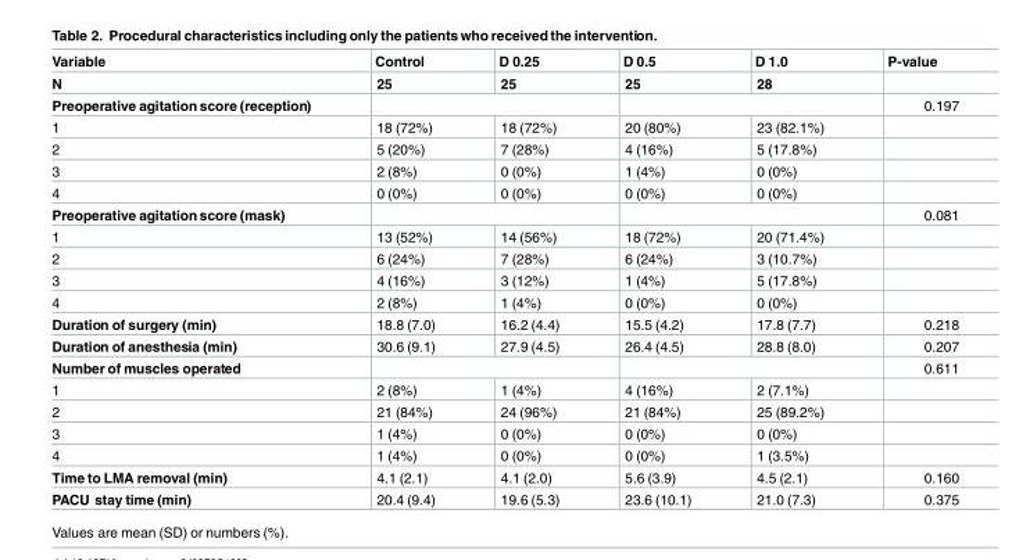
<table><thead><tr><td>Variable</td><td>Control</td><td>D 0.25</td><td>D 0.5</td><td>D 1.0</td><td>P-value</td></tr></thead><tbody><tr><td>N</td><td>25</td><td>25</td><td>25</td><td>28</td><td></td></tr><tr><td>Preoperative agitation score (reception)</td><td colspan="2"></td><td colspan="2"></td><td>0.197</td></tr><tr><td>1</td><td>18 (72%)</td><td>18 (72%)</td><td>20 (80%)</td><td>23 (82.1%)</td><td></td></tr><tr><td>2</td><td>5 (20%)</td><td>7 (28%)</td><td>4 (16%)</td><td>5 (17.8%)</td><td></td></tr><tr><td>3</td><td>2 (8%)</td><td>0 (0%)</td><td>1 (4%)</td><td>0 (0%)</td><td></td></tr><tr><td>4</td><td>0 (0%)</td><td>0 (0%)</td><td>0 (0%)</td><td>0 (0%)</td><td></td></tr><tr><td>Preoperative agitation score (mask)</td><td colspan="2"></td><td colspan="2"></td><td>0.081</td></tr><tr><td>1</td><td>13 (52%)</td><td>14 (56%)</td><td>18 (72%)</td><td>20 (71.4%)</td><td></td></tr><tr><td>2</td><td>6 (24%)</td><td>7 (28%)</td><td>6 (24%)</td><td>3 (10.7%)</td><td></td></tr><tr><td>3</td><td>4 (16%)</td><td>3 (12%)</td><td>1 (4%)</td><td>5 (17.8%)</td><td></td></tr><tr><td>4</td><td>2 (8%)</td><td>1 (4%)</td><td>0 (0%)</td><td>0 (0%)</td><td></td></tr><tr><td>Duration of surgery (min)</td><td>18.8 (7.0)</td><td>16.2 (4.4)</td><td>15.5 (4.2)</td><td>17.8 (7.7)</td><td>0.218</td></tr><tr><td>Duration of anesthesia (min)</td><td>30.6 (9.1)</td><td>27.9 (4.5)</td><td>26.4 (4.5)</td><td>28.8 (8.0)</td><td>0.207</td></tr><tr><td>Number of muscles operated</td><td colspan="2"></td><td colspan="2"></td><td>0.611</td></tr><tr><td>1</td><td>2 (8%)</td><td>1 (4%)</td><td>4 (16%)</td><td>2 (7.1%)</td><td></td></tr><tr><td>2</td><td>21 (84%)</td><td>24 (96%)</td><td>21 (84%)</td><td>25 (89.2%)</td><td></td></tr><tr><td>3</td><td>1 (4%)</td><td>0 (0%)</td><td>0 (0%)</td><td>0 (0%)</td><td></td></tr><tr><td>4</td><td>1 (4%)</td><td>0 (0%)</td><td>0 (0%)</td><td>1 (3.5%)</td><td></td></tr><tr><td>Time to LMA removal (min)</td><td>4.1 (2.1)</td><td>4.1 (2.0)</td><td>5.6 (3.9)</td><td>4.5 (2.1)</td><td>0.160</td></tr><tr><td>PACU stay time (min)</td><td>20.4 (9.4)</td><td>19.6 (5.3)</td><td>23.6 (10.1)</td><td>21.0 (7.3)</td><td>0.375</td></tr></tbody></table>